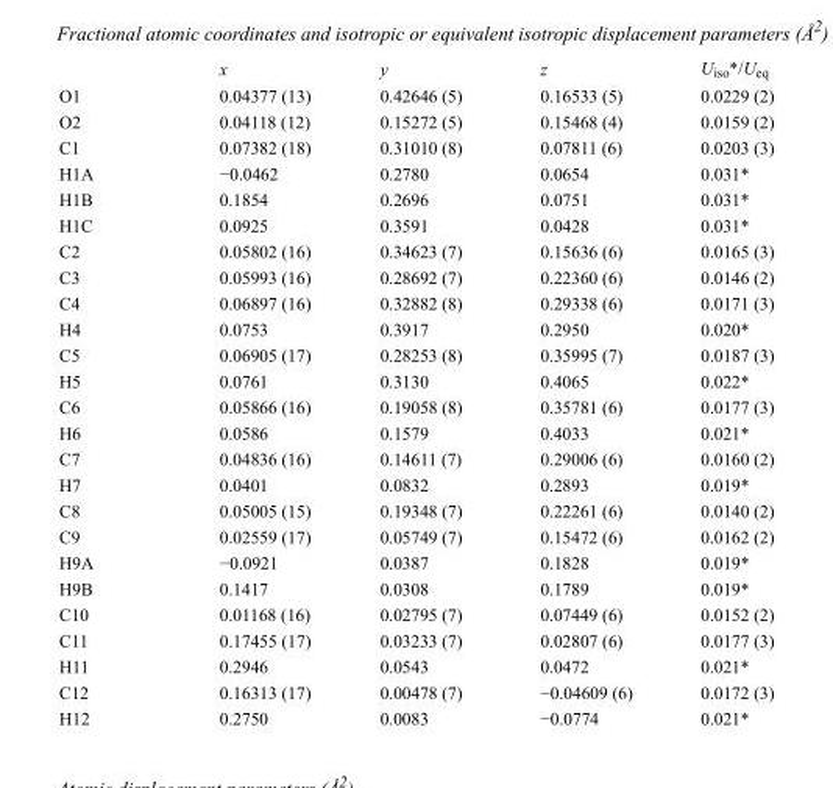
<table><thead><tr><td></td><td>x</td><td>y</td><td>z</td><td>U<sub>iso</sub>*/U<sub>eq</sub></td></tr></thead><tbody><tr><td>O1</td><td>0.04377 (13)</td><td>0.42646 (5)</td><td>0.16533 (5)</td><td>0.0229 (2)</td></tr><tr><td>O2</td><td>0.04118 (12)</td><td>0.15272 (5)</td><td>0.15468 (4)</td><td>0.0159 (2)</td></tr><tr><td>C1</td><td>0.07382 (18)</td><td>0.31010 (8)</td><td>0.07811 (6)</td><td>0.0203 (3)</td></tr><tr><td>H1A</td><td>−0.0462</td><td>0.2780</td><td>0.0654</td><td>0.031*</td></tr><tr><td>H1B</td><td>0.1854</td><td>0.2696</td><td>0.0751</td><td>0.031*</td></tr><tr><td>H1C</td><td>0.0925</td><td>0.3591</td><td>0.0428</td><td>0.031*</td></tr><tr><td>C2</td><td>0.05802 (16)</td><td>0.34623 (7)</td><td>0.15636 (6)</td><td>0.0165 (3)</td></tr><tr><td>C3</td><td>0.05993 (16)</td><td>0.28692 (7)</td><td>0.22360 (6)</td><td>0.0146 (2)</td></tr><tr><td>C4</td><td>0.06897 (16)</td><td>0.32882 (8)</td><td>0.29338 (6)</td><td>0.0171 (3)</td></tr><tr><td>H4</td><td>0.0753</td><td>0.3917</td><td>0.2950</td><td>0.020*</td></tr><tr><td>C5</td><td>0.06905 (17)</td><td>0.28253 (8)</td><td>0.35995 (7)</td><td>0.0187 (3)</td></tr><tr><td>H5</td><td>0.0761</td><td>0.3130</td><td>0.4065</td><td>0.022*</td></tr><tr><td>C6</td><td>0.05866 (16)</td><td>0.19058 (8)</td><td>0.35781 (6)</td><td>0.0177 (3)</td></tr><tr><td>H6</td><td>0.0586</td><td>0.1579</td><td>0.4033</td><td>0.021*</td></tr><tr><td>C7</td><td>0.04836 (16)</td><td>0.14611 (7)</td><td>0.29006 (6)</td><td>0.0160 (2)</td></tr><tr><td>H7</td><td>0.0401</td><td>0.0832</td><td>0.2893</td><td>0.019*</td></tr><tr><td>C8</td><td>0.05005 (15)</td><td>0.19348 (7)</td><td>0.22261 (6)</td><td>0.0140 (2)</td></tr><tr><td>C9</td><td>0.02559 (17)</td><td>0.05749 (7)</td><td>0.15472 (6)</td><td>0.0162 (2)</td></tr><tr><td>H9A</td><td>−0.0921</td><td>0.0387</td><td>0.1828</td><td>0.019*</td></tr><tr><td>H9B</td><td>0.1417</td><td>0.0308</td><td>0.1789</td><td>0.019*</td></tr><tr><td>C10</td><td>0.01168 (16)</td><td>0.02795 (7)</td><td>0.07449 (6)</td><td>0.0152 (2)</td></tr><tr><td>C11</td><td>0.17455 (17)</td><td>0.03233 (7)</td><td>0.02807 (6)</td><td>0.0177 (3)</td></tr><tr><td>H11</td><td>0.2946</td><td>0.0543</td><td>0.0472</td><td>0.021*</td></tr><tr><td>C12</td><td>0.16313 (17)</td><td>0.00478 (7)</td><td>−0.04609 (6)</td><td>0.0172 (3)</td></tr><tr><td>H12</td><td>0.2750</td><td>0.0083</td><td>−0.0774</td><td>0.021*</td></tr></tbody></table>